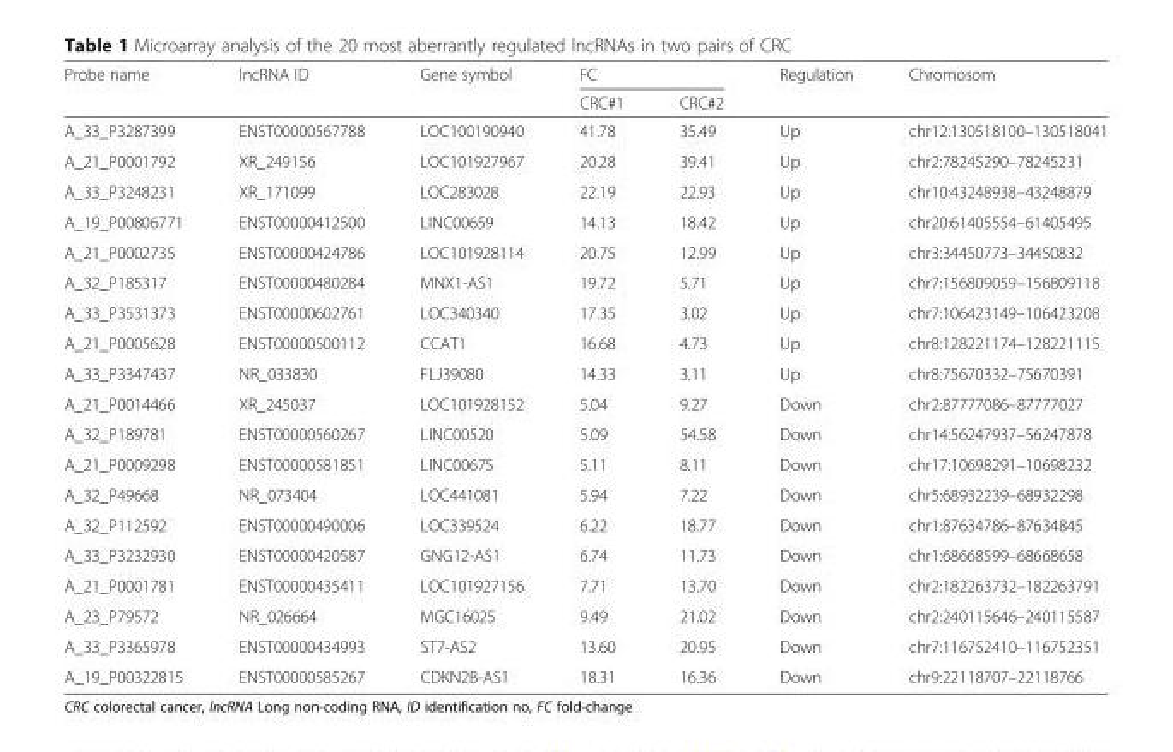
<table><thead><tr><td rowspan="2">Probe name</td><td rowspan="2">lncRNA ID</td><td rowspan="2">Gene symbol</td><td colspan="2">FC</td><td rowspan="2">Regulation</td><td rowspan="2">Chromosom</td></tr><tr><td>CRC#1</td><td>CRC#2</td></tr></thead><tbody><tr><td>A_33_P3287399</td><td>ENST00000567788</td><td>LOC100190940</td><td>41.78</td><td>35.49</td><td>Up</td><td>chr12:130518100–130518041</td></tr><tr><td>A_21_P0001792</td><td>XR_249156</td><td>LOC101927967</td><td>20.28</td><td>39.41</td><td>Up</td><td>chr2:78245290–78245231</td></tr><tr><td>A_33_P3248231</td><td>XR_171099</td><td>LOC283028</td><td>22.19</td><td>22.93</td><td>Up</td><td>chr10:43248938–43248879</td></tr><tr><td>A_19_P00806771</td><td>ENST00000412500</td><td>LINC00659</td><td>14.13</td><td>18.42</td><td>Up</td><td>chr20:61405554–61405495</td></tr><tr><td>A_21_P0002735</td><td>ENST00000424786</td><td>LOC101928114</td><td>20.75</td><td>12.99</td><td>Up</td><td>chr3:34450773–34450832</td></tr><tr><td>A_32_P185317</td><td>ENST00000480284</td><td>MNX1-AS1</td><td>19.72</td><td>5.71</td><td>Up</td><td>chr7:156809059–156809118</td></tr><tr><td>A_33_P3531373</td><td>ENST00000602761</td><td>LOC340340</td><td>17.35</td><td>3.02</td><td>Up</td><td>chr7:106423149–106423208</td></tr><tr><td>A_21_P0005628</td><td>ENST00000500112</td><td>CCAT1</td><td>16.68</td><td>4.73</td><td>Up</td><td>chr8:128221174–128221115</td></tr><tr><td>A_33_P3347437</td><td>NR_033830</td><td>FLJ39080</td><td>14.33</td><td>3.11</td><td>Up</td><td>chr8:75670332–75670391</td></tr><tr><td>A_21_P0014466</td><td>XR_245037</td><td>LOC101928152</td><td>5.04</td><td>9.27</td><td>Down</td><td>chr2:87777086–87777027</td></tr><tr><td>A_32_P189781</td><td>ENST00000560267</td><td>LINC00520</td><td>5.09</td><td>54.58</td><td>Down</td><td>chr14:56247937–56247878</td></tr><tr><td>A_21_P0009298</td><td>ENST00000581851</td><td>LINC00675</td><td>5.11</td><td>8.11</td><td>Down</td><td>chr17:10698291–10698232</td></tr><tr><td>A_32_P49668</td><td>NR_073404</td><td>LOC441081</td><td>5.94</td><td>7.22</td><td>Down</td><td>chr5:68932239–68932298</td></tr><tr><td>A_32_P112592</td><td>ENST00000490006</td><td>LOC339524</td><td>6.22</td><td>18.77</td><td>Down</td><td>chr1:87634786–87634845</td></tr><tr><td>A_33_P3232930</td><td>ENST00000420587</td><td>GNG12-AS1</td><td>6.74</td><td>11.73</td><td>Down</td><td>chr1:68668599–68668658</td></tr><tr><td>A_21_P0001781</td><td>ENST00000435411</td><td>LOC101927156</td><td>7.71</td><td>13.70</td><td>Down</td><td>chr2:182263732–182263791</td></tr><tr><td>A_23_P79572</td><td>NR_026664</td><td>MGC16025</td><td>9.49</td><td>21.02</td><td>Down</td><td>chr2:240115646–240115587</td></tr><tr><td>A_33_P3365978</td><td>ENST00000434993</td><td>ST7-AS2</td><td>13.60</td><td>20.95</td><td>Down</td><td>chr7:116752410–116752351</td></tr><tr><td>A_19_P00322815</td><td>ENST00000585267</td><td>CDKN2B-AS1</td><td>18.31</td><td>16.36</td><td>Down</td><td>chr9:22118707–22118766</td></tr></tbody></table>